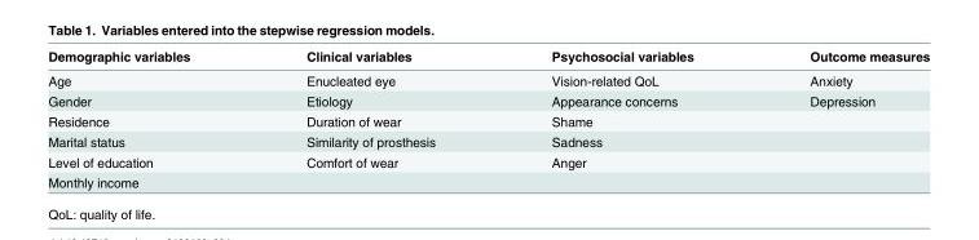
<table><thead><tr><td>Demographic variables</td><td>Clinical variables</td><td>Psychosocial variables</td><td>Outcome measures</td></tr></thead><tbody><tr><td>Age</td><td>Enucleated eye</td><td>Vision-related QoL</td><td>Anxiety</td></tr><tr><td>Gender</td><td>Etiology</td><td>Appearance concerns</td><td>Depression</td></tr><tr><td>Residence</td><td>Duration of wear</td><td>Shame</td><td></td></tr><tr><td>Marital status</td><td>Similarity of prosthesis</td><td>Sadness</td><td></td></tr><tr><td>Level of education</td><td>Comfort of wear</td><td>Anger</td><td></td></tr><tr><td>Monthly income</td><td></td><td></td><td></td></tr></tbody></table>